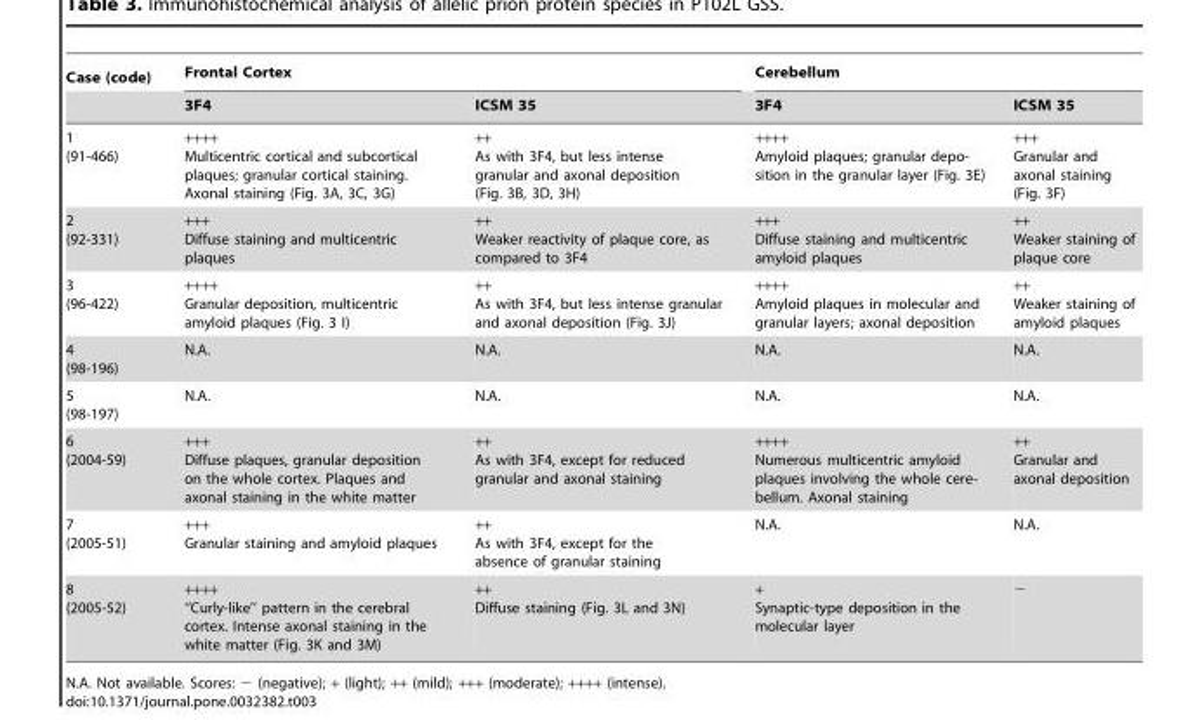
<table><thead><tr><td rowspan="2">Case (code)</td><td colspan="2">Frontal Cortex</td><td colspan="2">Cerebellum</td></tr><tr><td>3F4</td><td>ICSM 35</td><td>3F4</td><td>ICSM 35</td></tr></thead><tbody><tr><td>1 (91-466)</td><td>++++ Multicentric cortical and subcortical plaques; granular cortical staining. Axonal staining (Fig. 3A, 3C, 3G)</td><td>++ As with 3F4, but less intense granular and axonal deposition (Fig. 3B, 3D, 3H)</td><td>++++ Amyloid plaques; granular depo- sition in the granular layer (Fig. 3E)</td><td>+++ Granular and axonal staining (Fig. 3F)</td></tr><tr><td>2 (92-331)</td><td>+++ Diffuse staining and multicentric plaques</td><td>++ Weaker reactivity of plaque core, as compared to 3F4</td><td>+++ Diffuse staining and multicentric amyloid plaques</td><td>++ Weaker staining of plaque core</td></tr><tr><td>3 (96-422)</td><td>++++ Granular deposition, multicentric amyloid plaques (Fig. 3 I)</td><td>++ As with 3F4, but less intense granular and axonal deposition (Fig. 3J)</td><td>++++ Amyloid plaques in molecular and granular layers; axonal deposition</td><td>++ Weaker staining of amyloid plaques</td></tr><tr><td>4 (98-196)</td><td>N.A.</td><td>N.A.</td><td>N.A.</td><td>N.A.</td></tr><tr><td>5 (98-197)</td><td>N.A.</td><td>N.A.</td><td>N.A.</td><td>N.A.</td></tr><tr><td>6 (2004-59)</td><td>+++ Diffuse plaques, granular deposition on the whole cortex. Plaques and axonal staining in the white matter</td><td>++ As with 3F4, except for reduced granular and axonal staining</td><td>++++ Numerous multicentric amyloid plaques involving the whole cere- bellum. Axonal staining</td><td>++ Granular and axonal deposition</td></tr><tr><td>7 (2005-51)</td><td>+++ Granular staining and amyloid plaques</td><td>++ As with 3F4, except for the absence of granular staining</td><td>N.A.</td><td>N.A.</td></tr><tr><td>8 (2005-52)</td><td>++++ ‘‘Curly-like’’ pattern in the cerebral cortex. Intense axonal staining in the white matter (Fig. 3K and 3M)</td><td>++ Diffuse staining (Fig. 3L and 3N)</td><td>+ Synaptic-type deposition in the molecular layer</td><td>−</td></tr></tbody></table>